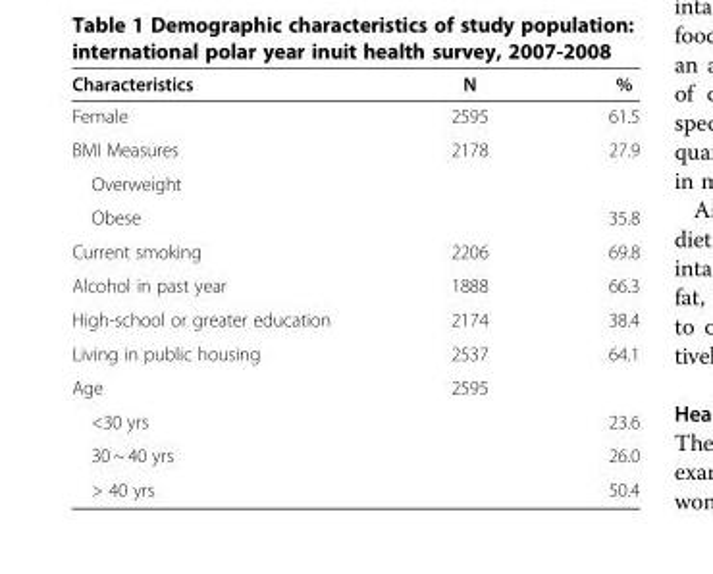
<table><thead><tr><td>Characteristics</td><td>N</td><td>%</td></tr></thead><tbody><tr><td>Female</td><td>2595</td><td>61.5</td></tr><tr><td>BMI Measures</td><td>2178</td><td>27.9</td></tr><tr><td colspan="3">Overweight</td></tr><tr><td>Obese</td><td></td><td>35.8</td></tr><tr><td>Current smoking</td><td>2206</td><td>69.8</td></tr><tr><td>Alcohol in past year</td><td>1888</td><td>66.3</td></tr><tr><td>High-school or greater education</td><td>2174</td><td>38.4</td></tr><tr><td>Living in public housing</td><td>2537</td><td>64.1</td></tr><tr><td>Age</td><td>2595</td><td></td></tr><tr><td>&lt;30 yrs</td><td></td><td>23.6</td></tr><tr><td>30 ~ 40 yrs</td><td></td><td>26.0</td></tr><tr><td>&gt; 40 yrs</td><td></td><td>50.4</td></tr></tbody></table>